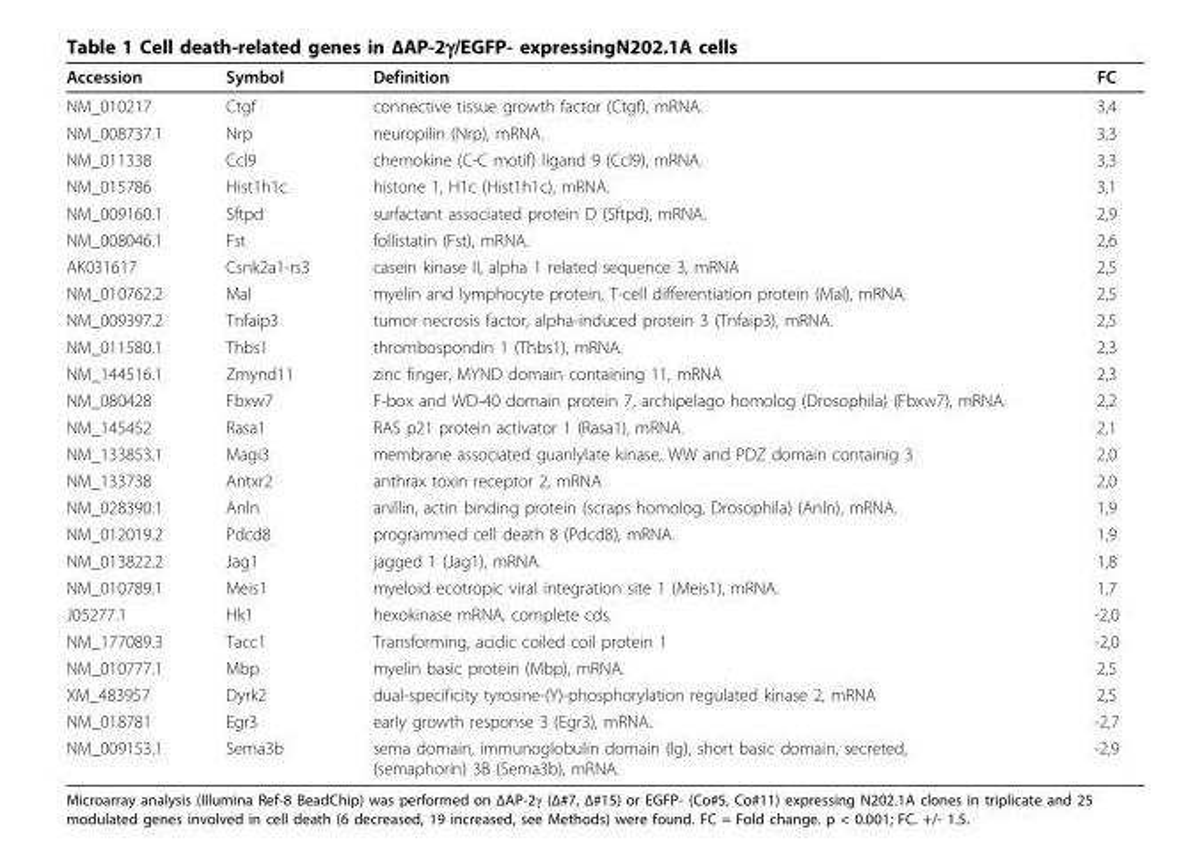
<table><thead><tr><td>Accession</td><td>Symbol</td><td>Definition</td><td>FC</td></tr></thead><tbody><tr><td>NM_010217</td><td>Ctgf</td><td>connective tissue growth factor (Ctgf), mRNA.</td><td>3,4</td></tr><tr><td>NM_008737.1</td><td>Nrp</td><td>neuropilin (Nrp), mRNA.</td><td>3,3</td></tr><tr><td>NM_011338</td><td>Ccl9</td><td>chemokine (C-C motif) ligand 9 (Ccl9), mRNA.</td><td>3,3</td></tr><tr><td>NM_015786</td><td>Hist1h1c</td><td>histone 1, H1c (Hist1h1c), mRNA.</td><td>3,1</td></tr><tr><td>NM_009160.1</td><td>Sftpd</td><td>surfactant associated protein D (Sftpd), mRNA.</td><td>2,9</td></tr><tr><td>NM_008046.1</td><td>Fst</td><td>follistatin (Fst), mRNA.</td><td>2,6</td></tr><tr><td>AK031617</td><td>Csnk2a1-rs3</td><td>casein kinase II, alpha 1 related sequence 3, mRNA</td><td>2,5</td></tr><tr><td>NM_010762.2</td><td>Mal</td><td>myelin and lymphocyte protein, T-cell differentiation protein (Mal), mRNA.</td><td>2,5</td></tr><tr><td>NM_009397.2</td><td>Tnfaip3</td><td>tumor necrosis factor, alpha-induced protein 3 (Tnfaip3), mRNA.</td><td>2,5</td></tr><tr><td>NM_011580.1</td><td>Thbs1</td><td>thrombospondin 1 (Thbs1), mRNA.</td><td>2,3</td></tr><tr><td>NM_144516.1</td><td>Zmynd11</td><td>zinc finger, MYND domain containing 11, mRNA</td><td>2,3</td></tr><tr><td>NM_080428</td><td>Fbxw7</td><td>F-box and WD-40 domain protein 7, archipelago homolog (Drosophila) (Fbxw7), mRNA.</td><td>2,2</td></tr><tr><td>NM_145452</td><td>Rasa1</td><td>RAS p21 protein activator 1 (Rasa1), mRNA.</td><td>2,1</td></tr><tr><td>NM_133853.1</td><td>Magi3</td><td>membrane associated guanlylate kinase, WW and PDZ domain containig 3</td><td>2,0</td></tr><tr><td>NM_133738</td><td>Antxr2</td><td>anthrax toxin receptor 2, mRNA</td><td>2,0</td></tr><tr><td>NM_028390.1</td><td>Anln</td><td>anillin, actin binding protein (scraps homolog, Drosophila) (Anln), mRNA.</td><td>1,9</td></tr><tr><td>NM_012019.2</td><td>Pdcd8</td><td>programmed cell death 8 (Pdcd8), mRNA.</td><td>1,9</td></tr><tr><td>NM_013822.2</td><td>Jag1</td><td>jagged 1 (Jag1), mRNA.</td><td>1,8</td></tr><tr><td>NM_010789.1</td><td>Meis1</td><td>myeloid ecotropic viral integration site 1 (Meis1), mRNA.</td><td>1,7</td></tr><tr><td>J05277.1</td><td>Hk1</td><td>hexokinase mRNA, complete cds.</td><td>-2,0</td></tr><tr><td>NM_177089.3</td><td>Tacc1</td><td>Transforming, acidic coiled coil protein 1</td><td>-2,0</td></tr><tr><td>NM_010777.1</td><td>Mbp</td><td>myelin basic protein (Mbp), mRNA.</td><td>2,5</td></tr><tr><td>XM_483957</td><td>Dyrk2</td><td>dual-specificity tyrosine-(Y)-phosphorylation regulated kinase 2, mRNA</td><td>2,5</td></tr><tr><td>NM_018781</td><td>Egr3</td><td>early growth response 3 (Egr3), mRNA.</td><td>-2,7</td></tr><tr><td>NM_009153.1</td><td>Sema3b</td><td>sema domain, immunoglobulin domain (Ig), short basic domain, secreted, (semaphorin) 3B (Sema3b), mRNA.</td><td>-2,9</td></tr></tbody></table>